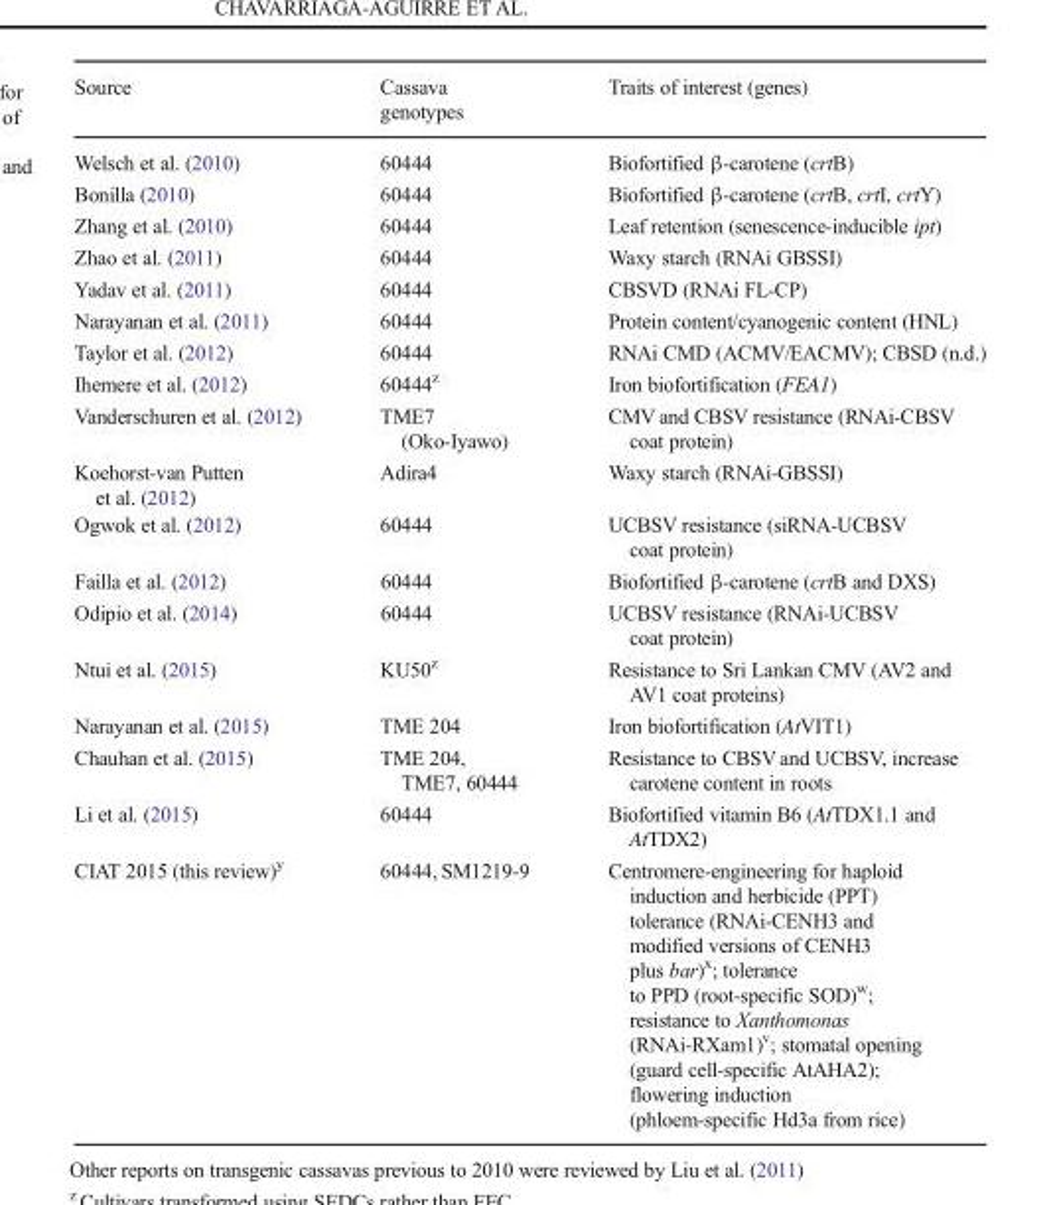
<table><thead><tr><td>Source</td><td>Cassava genotypes</td><td>Traits of interest (genes)</td></tr></thead><tbody><tr><td>Welsch et al. (2010)</td><td>60444</td><td>Biofortified β-carotene (crtB)</td></tr><tr><td>Bonilla (2010)</td><td>60444</td><td>Biofortified β-carotene (crtB, crtI, crtY)</td></tr><tr><td>Zhang et al. (2010)</td><td>60444</td><td>Leaf retention (senescence-inducible ipt)</td></tr><tr><td>Zhao et al. (2011)</td><td>60444</td><td>Waxy starch (RNAi GBSSI)</td></tr><tr><td>Yadav et al. (2011)</td><td>60444</td><td>CBSVD (RNAi FL-CP)</td></tr><tr><td>Narayanan et al. (2011)</td><td>60444</td><td>Protein content/cyanogenic content (HNL)</td></tr><tr><td>Taylor et al. (2012)</td><td>60444</td><td>RNAi CMD (ACMV/EACMV); CBSD (n.d.)</td></tr><tr><td>Ihemere et al. (2012)</td><td>60444<sup>z</sup></td><td>Iron biofortification (FEA1)</td></tr><tr><td>Vanderschuren et al. (2012)</td><td>TME7 (Oko-Iyawo)</td><td>CMV and CBSV resistance (RNAi-CBSV coat protein)</td></tr><tr><td>Koehorst-van Putten et al. (2012)</td><td>Adira4</td><td>Waxy starch (RNAi-GBSSI)</td></tr><tr><td>Ogwok et al. (2012)</td><td>60444</td><td>UCBSV resistance (siRNA-UCBSV coat protein)</td></tr><tr><td>Failla et al. (2012)</td><td>60444</td><td>Biofortified β-carotene (crtB and DXS)</td></tr><tr><td>Odipio et al. (2014)</td><td>60444</td><td>UCBSV resistance (RNAi-UCBSV coat protein)</td></tr><tr><td>Ntui et al. (2015)</td><td>KU50<sup>z</sup></td><td>Resistance to Sri Lankan CMV (AV2 and AV1 coat proteins)</td></tr><tr><td>Narayanan et al. (2015)</td><td>TME 204</td><td>Iron biofortification (AtVIT1)</td></tr><tr><td>Chauhan et al. (2015)</td><td>TME 204, TME7, 60444</td><td>Resistance to CBSV and UCBSV, increase carotene content in roots</td></tr><tr><td>Li et al. (2015)</td><td>60444</td><td>Biofortified vitamin B6 (AtTDX1.1 and AtTDX2)</td></tr><tr><td>CIAT 2015 (this review)<sup>y</sup></td><td>60444, SM1219-9</td><td>Centromere-engineering for haploid induction and herbicide (PPT) tolerance (RNAi-CENH3 and modified versions of CENH3 plus bar)<sup>x</sup>; tolerance to PPD (root-specific SOD)<sup>w</sup>; resistance to Xanthomonas (RNAi-RXam1)<sup>v</sup>; stomatal opening (guard cell-specific AtAHA2); flowering induction (phloem-specific Hd3a from rice)</td></tr></tbody></table>